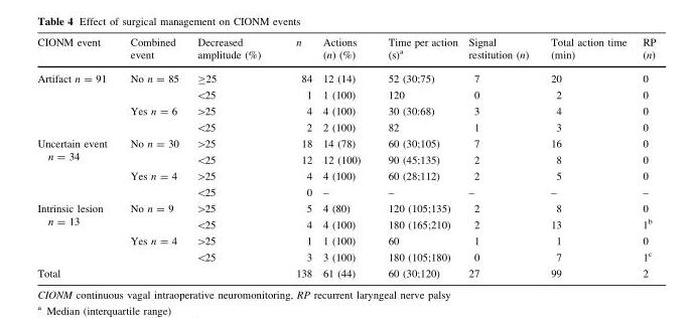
<table><thead><tr><td>CIONM event</td><td>Combined event</td><td>Decreased amplitude (%)</td><td>n</td><td>Actions (n) (%)</td><td>Time per action (s)<sup>a</sup></td><td>Signal restitution (n)</td><td>Total action time (min)</td><td>RP (n)</td></tr></thead><tbody><tr><td rowspan="4">Artifact n = 91</td><td rowspan="2">No n = 85</td><td>≥25</td><td>84</td><td>12 (14)</td><td>52 (30;75)</td><td>7</td><td>20</td><td>0</td></tr><tr><td>&lt;25</td><td>1</td><td>1 (100)</td><td>120</td><td>0</td><td>2</td><td>0</td></tr><tr><td rowspan="2">Yes n = 6</td><td>&gt;25</td><td>4</td><td>4 (100)</td><td>30 (30:68)</td><td>3</td><td>4</td><td>0</td></tr><tr><td>&lt;25</td><td>2</td><td>2 (100)</td><td>82</td><td>1</td><td>3</td><td>0</td></tr><tr><td rowspan="4">Uncertain event n = 34</td><td rowspan="2">No n = 30</td><td>&gt;25</td><td>18</td><td>14 (78)</td><td>60 (30;105)</td><td>7</td><td>16</td><td>0</td></tr><tr><td>&lt;25</td><td>12</td><td>12 (100)</td><td>90 (45;135)</td><td>2</td><td>8</td><td>0</td></tr><tr><td rowspan="2">Yes n = 4</td><td>&gt;25</td><td>4</td><td>4 (100)</td><td>60 (28;112)</td><td>2</td><td>5</td><td>0</td></tr><tr><td>&lt;25</td><td>0</td><td>–</td><td>–</td><td>–</td><td>–</td><td>–</td></tr><tr><td rowspan="4">Intrinsic lesion n = 13</td><td rowspan="2">No n = 9</td><td>&gt;25</td><td>5</td><td>4 (80)</td><td>120 (105;135)</td><td>2</td><td>8</td><td>0</td></tr><tr><td>&lt;25</td><td>4</td><td>4 (100)</td><td>180 (165;210)</td><td>2</td><td>13</td><td>1<sup>b</sup></td></tr><tr><td rowspan="2">Yes n = 4</td><td>&gt;25</td><td>1</td><td>1 (100)</td><td>60</td><td>1</td><td>1</td><td>0</td></tr><tr><td>&lt;25</td><td>3</td><td>3 (100)</td><td>180 (105;180)</td><td>0</td><td>7</td><td>1<sup>c</sup></td></tr><tr><td>Total</td><td></td><td></td><td>138</td><td>61 (44)</td><td>60 (30;120)</td><td>27</td><td>99</td><td>2</td></tr></tbody></table>